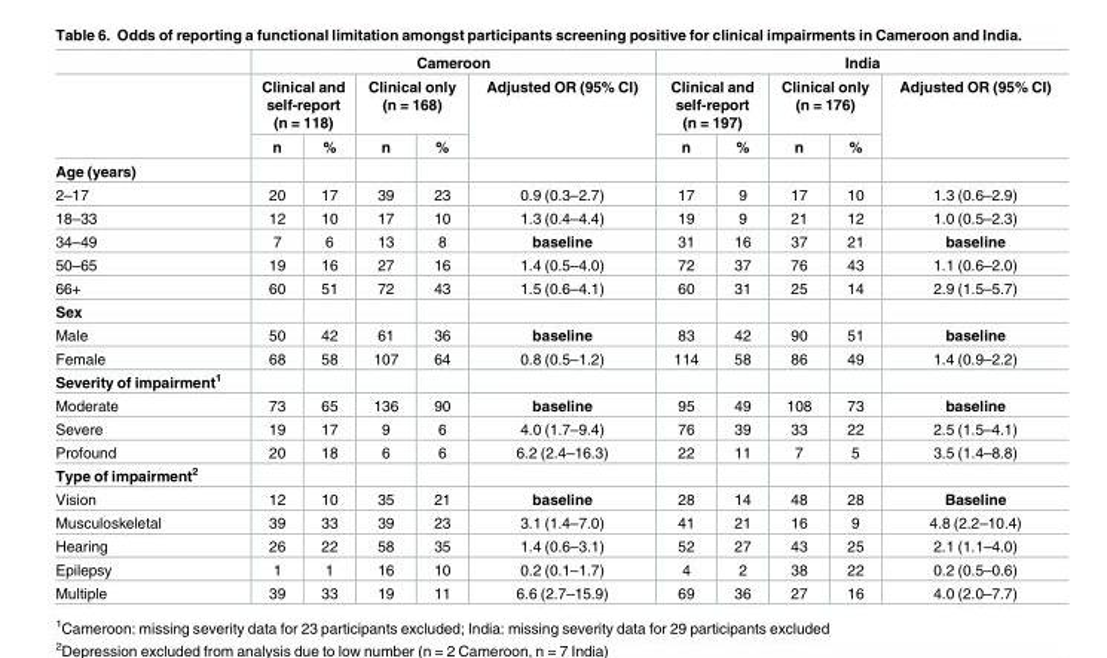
<table><thead><tr><td rowspan="3"></td><td colspan="5">Cameroon</td><td colspan="5">India</td></tr><tr><td colspan="2">Clinical and self-report (n = 118)</td><td colspan="2">Clinical only (n = 168)</td><td rowspan="2">Adjusted OR (95% CI)</td><td colspan="2">Clinical and self-report (n = 197)</td><td colspan="2">Clinical only (n = 176)</td><td rowspan="2">Adjusted OR (95% CI)</td></tr><tr><td>n</td><td>%</td><td>n</td><td>%</td><td>n</td><td>%</td><td>n</td><td>%</td></tr></thead><tbody><tr><td colspan="11">Age (years)</td></tr><tr><td>2–17</td><td>20</td><td>17</td><td>39</td><td>23</td><td>0.9 (0.3–2.7)</td><td>17</td><td>9</td><td>17</td><td>10</td><td>1.3 (0.6–2.9)</td></tr><tr><td>18–33</td><td>12</td><td>10</td><td>17</td><td>10</td><td>1.3 (0.4–4.4)</td><td>19</td><td>9</td><td>21</td><td>12</td><td>1.0 (0.5–2.3)</td></tr><tr><td>34–49</td><td>7</td><td>6</td><td>13</td><td>8</td><td>baseline</td><td>31</td><td>16</td><td>37</td><td>21</td><td>baseline</td></tr><tr><td>50–65</td><td>19</td><td>16</td><td>27</td><td>16</td><td>1.4 (0.5–4.0)</td><td>72</td><td>37</td><td>76</td><td>43</td><td>1.1 (0.6–2.0)</td></tr><tr><td>66+</td><td>60</td><td>51</td><td>72</td><td>43</td><td>1.5 (0.6–4.1)</td><td>60</td><td>31</td><td>25</td><td>14</td><td>2.9 (1.5–5.7)</td></tr><tr><td colspan="11">Sex</td></tr><tr><td>Male</td><td>50</td><td>42</td><td>61</td><td>36</td><td>baseline</td><td>83</td><td>42</td><td>90</td><td>51</td><td>baseline</td></tr><tr><td>Female</td><td>68</td><td>58</td><td>107</td><td>64</td><td>0.8 (0.5–1.2)</td><td>114</td><td>58</td><td>86</td><td>49</td><td>1.4 (0.9–2.2)</td></tr><tr><td colspan="11">Severity of impairment<sup>1</sup></td></tr><tr><td>Moderate</td><td>73</td><td>65</td><td>136</td><td>90</td><td>baseline</td><td>95</td><td>49</td><td>108</td><td>73</td><td>baseline</td></tr><tr><td>Severe</td><td>19</td><td>17</td><td>9</td><td>6</td><td>4.0 (1.7–9.4)</td><td>76</td><td>39</td><td>33</td><td>22</td><td>2.5 (1.5–4.1)</td></tr><tr><td>Profound</td><td>20</td><td>18</td><td>6</td><td>6</td><td>6.2 (2.4–16.3)</td><td>22</td><td>11</td><td>7</td><td>5</td><td>3.5 (1.4–8.8)</td></tr><tr><td colspan="11">Type of impairment<sup>2</sup></td></tr><tr><td>Vision</td><td>12</td><td>10</td><td>35</td><td>21</td><td>baseline</td><td>28</td><td>14</td><td>48</td><td>28</td><td>Baseline</td></tr><tr><td>Musculoskeletal</td><td>39</td><td>33</td><td>39</td><td>23</td><td>3.1 (1.4–7.0)</td><td>41</td><td>21</td><td>16</td><td>9</td><td>4.8 (2.2–10.4)</td></tr><tr><td>Hearing</td><td>26</td><td>22</td><td>58</td><td>35</td><td>1.4 (0.6–3.1)</td><td>52</td><td>27</td><td>43</td><td>25</td><td>2.1 (1.1–4.0)</td></tr><tr><td>Epilepsy</td><td>1</td><td>1</td><td>16</td><td>10</td><td>0.2 (0.1–1.7)</td><td>4</td><td>2</td><td>38</td><td>22</td><td>0.2 (0.5–0.6)</td></tr><tr><td>Multiple</td><td>39</td><td>33</td><td>19</td><td>11</td><td>6.6 (2.7–15.9)</td><td>69</td><td>36</td><td>27</td><td>16</td><td>4.0 (2.0–7.7)</td></tr></tbody></table>